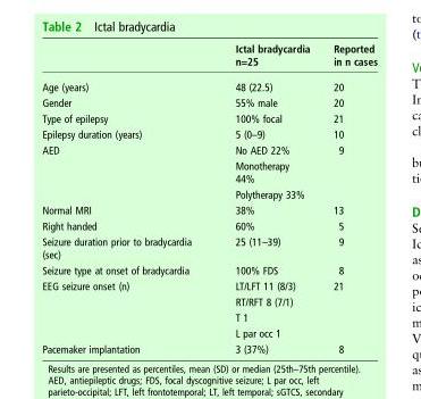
<table><thead><tr><td></td><td>Ictal bradycardia n=25</td><td>Reported in n cases</td></tr></thead><tbody><tr><td>Age (years)</td><td>48 (22.5)</td><td>20</td></tr><tr><td>Gender</td><td>55% male</td><td>20</td></tr><tr><td>Type of epilepsy</td><td>100% focal</td><td>21</td></tr><tr><td>Epilepsy duration (years)</td><td>5 (0–9)</td><td>10</td></tr><tr><td rowspan="3">AED</td><td>No AED 22%</td><td>9</td></tr><tr><td>Monotherapy 44%</td><td></td></tr><tr><td>Polytherapy 33%</td><td></td></tr><tr><td>Normal MRI</td><td>38%</td><td>13</td></tr><tr><td>Right handed</td><td>60%</td><td>5</td></tr><tr><td>Seizure duration prior to bradycardia (sec)</td><td>25 (11–39)</td><td>9</td></tr><tr><td>Seizure type at onset of bradycardia</td><td>100% FDS</td><td>8</td></tr><tr><td rowspan="4">EEG seizure onset (n)</td><td>LT/LFT 11 (8/3)</td><td>21</td></tr><tr><td>RT/RFT 8 (7/1)</td><td></td></tr><tr><td>T 1</td><td></td></tr><tr><td>L par occ 1</td><td></td></tr><tr><td>Pacemaker implantation</td><td>3 (37%)</td><td>8</td></tr></tbody></table>